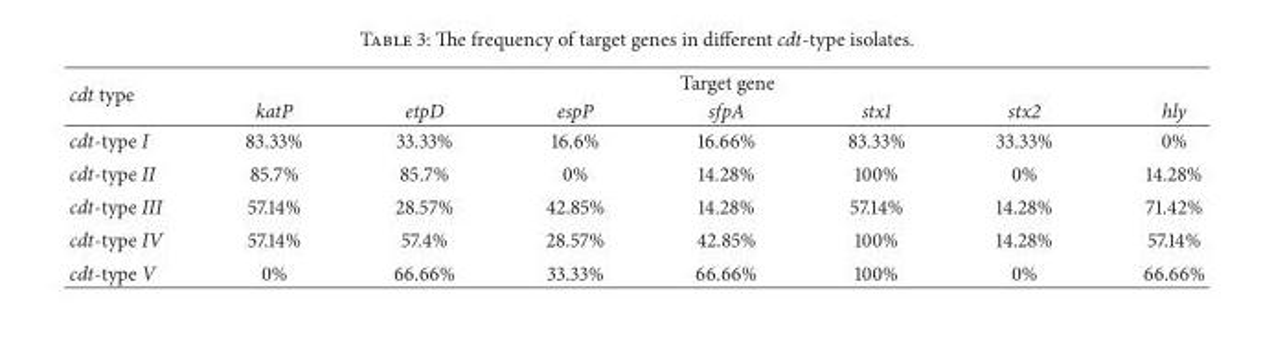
<table><thead><tr><td rowspan="2">cdt type</td><td colspan="7">Target gene</td></tr><tr><td>katP</td><td>etpD</td><td>espP</td><td>sfpA</td><td>stx1</td><td>stx2</td><td>hly</td></tr></thead><tbody><tr><td>cdt-type I</td><td>83.33%</td><td>33.33%</td><td>16.6%</td><td>16.66%</td><td>83.33%</td><td>33.33%</td><td>0%</td></tr><tr><td>cdt-type II</td><td>85.7%</td><td>85.7%</td><td>0%</td><td>14.28%</td><td>100%</td><td>0%</td><td>14.28%</td></tr><tr><td>cdt-type III</td><td>57.14%</td><td>28.57%</td><td>42.85%</td><td>14.28%</td><td>57.14%</td><td>14.28%</td><td>71.42%</td></tr><tr><td>cdt-type IV</td><td>57.14%</td><td>57.4%</td><td>28.57%</td><td>42.85%</td><td>100%</td><td>14.28%</td><td>57.14%</td></tr><tr><td>cdt-type V</td><td>0%</td><td>66.66%</td><td>33.33%</td><td>66.66%</td><td>100%</td><td>0%</td><td>66.66%</td></tr></tbody></table>